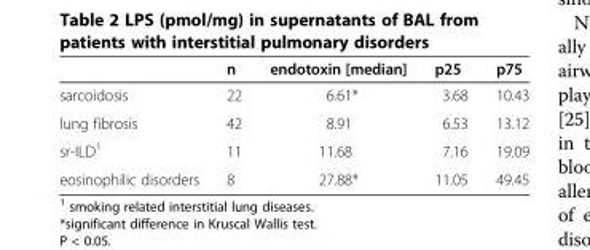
<table><thead><tr><td></td><td>n</td><td>endotoxin [median]</td><td>p25</td><td>p75</td></tr></thead><tbody><tr><td>sarcoidosis</td><td>22</td><td>6.61*</td><td>3.68</td><td>10.43</td></tr><tr><td>lung fibrosis</td><td>42</td><td>8.91</td><td>6.53</td><td>13.12</td></tr><tr><td>sr-ILD<sup>1</sup></td><td>11</td><td>11.68</td><td>7.16</td><td>19.09</td></tr><tr><td>eosinophilic disorders</td><td>8</td><td>27.88*</td><td>11.05</td><td>49.45</td></tr></tbody></table>